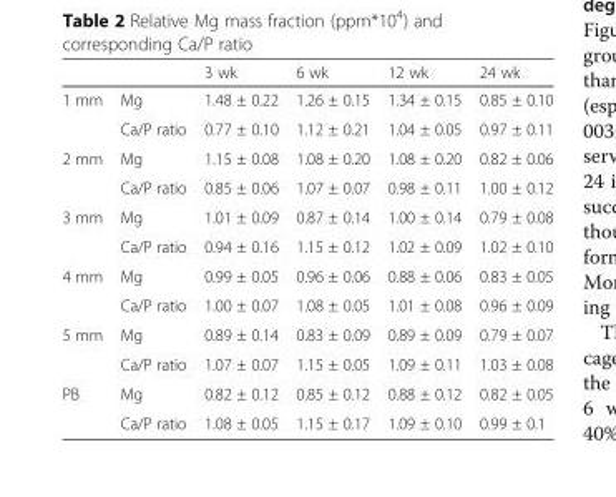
<table><thead><tr><td></td><td></td><td>3 wk</td><td>6 wk</td><td>12 wk</td><td>24 wk</td></tr></thead><tbody><tr><td rowspan="2">1 mm</td><td>Mg</td><td>1.48 ± 0.22</td><td>1.26 ± 0.15</td><td>1.34 ± 0.15</td><td>0.85 ± 0.10</td></tr><tr><td>Ca/P ratio</td><td>0.77 ± 0.10</td><td>1.12 ± 0.21</td><td>1.04 ± 0.05</td><td>0.97 ± 0.11</td></tr><tr><td rowspan="2">2 mm</td><td>Mg</td><td>1.15 ± 0.08</td><td>1.08 ± 0.20</td><td>1.08 ± 0.20</td><td>0.82 ± 0.06</td></tr><tr><td>Ca/P ratio</td><td>0.85 ± 0.06</td><td>1.07 ± 0.07</td><td>0.98 ± 0.11</td><td>1.00 ± 0.12</td></tr><tr><td rowspan="2">3 mm</td><td>Mg</td><td>1.01 ± 0.09</td><td>0.87 ± 0.14</td><td>1.00 ± 0.14</td><td>0.79 ± 0.08</td></tr><tr><td>Ca/P ratio</td><td>0.94 ± 0.16</td><td>1.15 ± 0.12</td><td>1.02 ± 0.09</td><td>1.02 ± 0.10</td></tr><tr><td rowspan="2">4 mm</td><td>Mg</td><td>0.99 ± 0.05</td><td>0.96 ± 0.06</td><td>0.88 ± 0.06</td><td>0.83 ± 0.05</td></tr><tr><td>Ca/P ratio</td><td>1.00 ± 0.07</td><td>1.08 ± 0.05</td><td>1.01 ± 0.08</td><td>0.96 ± 0.09</td></tr><tr><td rowspan="2">5 mm</td><td>Mg</td><td>0.89 ± 0.14</td><td>0.83 ± 0.09</td><td>0.89 ± 0.09</td><td>0.79 ± 0.07</td></tr><tr><td>Ca/P ratio</td><td>1.07 ± 0.07</td><td>1.15 ± 0.05</td><td>1.09 ± 0.11</td><td>1.03 ± 0.08</td></tr><tr><td rowspan="2">PB</td><td>Mg</td><td>0.82 ± 0.12</td><td>0.85 ± 0.12</td><td>0.88 ± 0.12</td><td>0.82 ± 0.05</td></tr><tr><td>Ca/P ratio</td><td>1.08 ± 0.05</td><td>1.15 ± 0.17</td><td>1.09 ± 0.10</td><td>0.99 ± 0.1</td></tr></tbody></table>